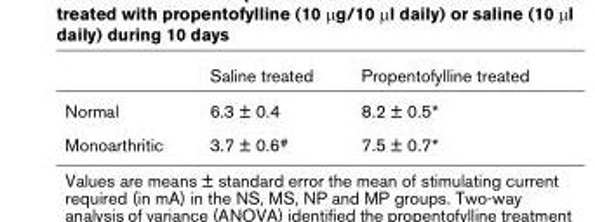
<table><thead><tr><td></td><td>Saline treated</td><td>Propentofylline treated</td></tr></thead><tbody><tr><td>Normal</td><td>6.3 ± 0.4</td><td>8.2 ± 0.5*</td></tr><tr><td>Monoarthritic</td><td>3.7 ± 0.6<sup>#</sup></td><td>7.5 ± 0.7*</td></tr></tbody></table>